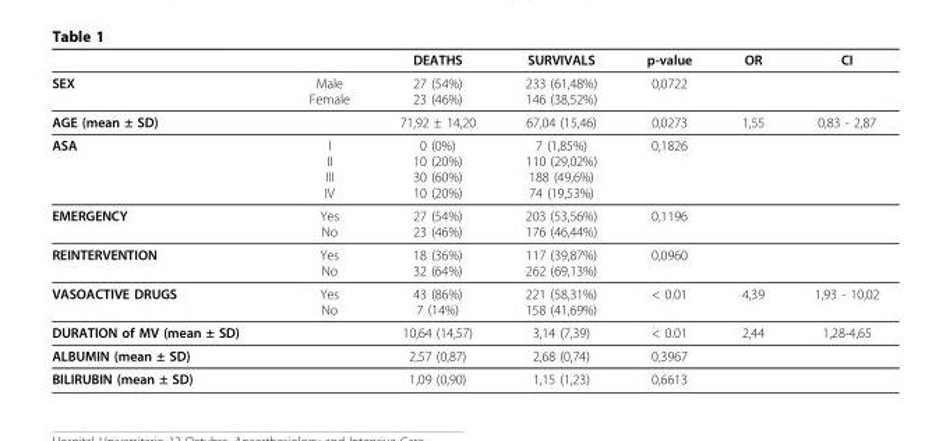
<table><thead><tr><td></td><td></td><td>DEATHS</td><td>SURVIVALS</td><td>p-value</td><td>OR</td><td>CI</td></tr></thead><tbody><tr><td>SEX</td><td>Male Female</td><td>27 (54%) 23 (46%)</td><td>233 (61,48%) 146 (38,52%)</td><td>0,0722</td><td></td><td></td></tr><tr><td>AGE (mean ± SD)</td><td></td><td>71,92 ± 14,20</td><td>67,04 (15,46)</td><td>0,0273</td><td>1,55</td><td>0,83 - 2,87</td></tr><tr><td>ASA</td><td>I II III IV</td><td>0 (0%) 10 (20%) 30 (60%) 10 (20%)</td><td>7 (1,85%) 110 (29,02%) 188 (49,6%) 74 (19,53%)</td><td>0,1826</td><td></td><td></td></tr><tr><td>EMERGENCY</td><td>Yes No</td><td>27 (54%) 23 (46%)</td><td>203 (53,56%) 176 (46,44%)</td><td>0,1196</td><td></td><td></td></tr><tr><td>REINTERVENTION</td><td>Yes No</td><td>18 (36%) 32 (64%)</td><td>117 (39,87%) 262 (69,13%)</td><td>0,0960</td><td></td><td></td></tr><tr><td>VASOACTIVE DRUGS</td><td>Yes No</td><td>43 (86%) 7 (14%)</td><td>221 (58,31%) 158 (41,69%)</td><td>&lt; 0.01</td><td>4,39</td><td>1,93 - 10,02</td></tr><tr><td>DURATION of MV (mean ± SD)</td><td></td><td>10,64 (14,57)</td><td>3,14 (7,39)</td><td>&lt; 0.01</td><td>2,44</td><td>1,28-4,65</td></tr><tr><td>ALBUMIN (mean ± SD)</td><td></td><td>2,57 (0,87)</td><td>2,68 (0,74)</td><td>0,3967</td><td></td><td></td></tr><tr><td>BILIRUBIN (mean ± SD)</td><td></td><td>1,09 (0,90)</td><td>1,15 (1,23)</td><td>0,6613</td><td></td><td></td></tr></tbody></table>